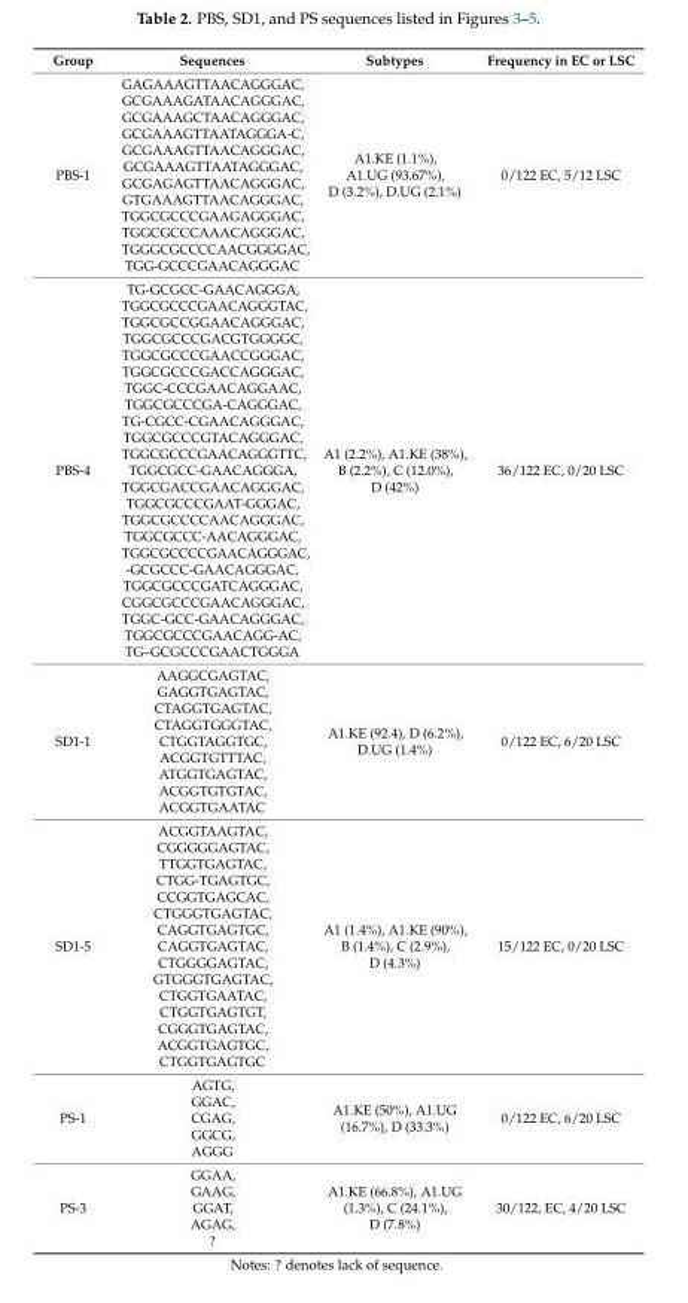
<table><thead><tr><td>Group</td><td>Sequences</td><td>Subtypes</td><td>Frequency in EC or LSC</td></tr></thead><tbody><tr><td>PBS-1</td><td>GAGAAAGTTAACAGGGAC, GCGAAAGATAACAGGGAC, GCGAAAGCTAACAGGGAC, GCGAAAGTTAATAGGGA-C, GCGAAAGTTAACAGGGAC, GCGAAAGTTAATAGGGAC, GCGAGAGTTAACAGGGAC, GTGAAAGTTAACAGGGAC, TGGCGCCCGAAGAGGGAC, TGGCGCCCAAACAGGGAC, TGGGCGCCCCAACGGGGAC, TGG-GCCCGAACAGGGAC</td><td>A1.KE (1.1%), A1.UG (93.67%), D (3.2%), D.UG (2.1%)</td><td>0/122 EC, 5/12 LSC</td></tr><tr><td>PBS-4</td><td>TG-GCGCC-GAACAGGGA, TGGCGCCCGAACAGGGTAC, TGGCGCCGGAACAGGGAC, TGGCGCCCGACGTGGGGC, TGGCGCCCGAACCGGGAC, TGGCGCCCGACCAGGGAC, TGGC-CCCGAACAGGAAC, TGGCGCCCGA-CAGGGAC, TG-CGCC-CGAACAGGGAC, TGGCGCCCGTACAGGGAC, TGGCGCCCGAACAGGGTTC, TGGCGCC-GAACAGGGA, TGGCGACCGAACAGGGAC, TGGCGCCCGAAT-GGGAC, TGGCGCCCCAACAGGGAC, TGGCGCCC-AACAGGGAC, TGGCGCCCCGAACAGGGAC, -GCGCCC-GAACAGGGAC, TGGCGCCCGATCAGGGAC, CGGCGCCCGAACAGGGAC, TGGC-GCC-GAACAGGGAC, TGGCGCCCGAACAGG-AC, TG–GCGCCCGAACTGGGA</td><td>A1 (2.2%), A1.KE (38%), B (2.2%), C (12.0%), D (42%)</td><td>36/122 EC, 0/20 LSC</td></tr><tr><td>SD1-1</td><td>AAGGCGAGTAC, GAGGTGAGTAC, CTAGGTGAGTAC, CTAGGTGGGTAC, CTGGTAGGTGC, ACGGTGTTTAC, ATGGTGAGTAC, ACGGTGTGTAC, ACGGTGAATAC</td><td>A1.KE (92.4), D (6.2%), D.UG (1.4%)</td><td>0/122 EC, 6/20 LSC</td></tr><tr><td>SD1-5</td><td>ACGGTAAGTAC, CGGGGGAGTAC, TTGGTGAGTAC, CTGG-TGAGTGC, CCGGTGAGCAC, CTGGGTGAGTAC, CAGGTGAGTGC, CAGGTGAGTAC, CTGGGGAGTAC, GTGGGTGAGTAC, CTGGTGAATAC, CTGGTGAGTGT, CGGGTGAGTAC, ACGGTGAGTGC, CTGGTGAGTGC</td><td>A1 (1.4%), A1.KE (90%), B (1.4%), C (2.9%), D (4.3%)</td><td>15/122 EC, 0/20 LSC</td></tr><tr><td>PS-1</td><td>AGTG, GGAC, CGAG, GGCG, AGGG</td><td>A1.KE (50%), A1.UG (16.7%), D (33.3%)</td><td>0/122 EC, 6/20 LSC</td></tr><tr><td>PS-3</td><td>GGAA, GAAG, GGAT, AGAG, ?</td><td>A1.KE (66.8%), A1.UG (1.3%), C (24.1%), D (7.8%)</td><td>30/122, EC, 4/20 LSC</td></tr></tbody></table>